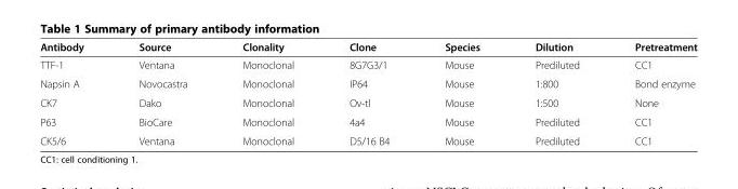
<table><thead><tr><td>Antibody</td><td>Source</td><td>Clonality</td><td>Clone</td><td>Species</td><td>Dilution</td><td>Pretreatment</td></tr></thead><tbody><tr><td>TTF-1</td><td>Ventana</td><td>Monoclonal</td><td>8G7G3/1</td><td>Mouse</td><td>Prediluted</td><td>CC1</td></tr><tr><td>Napsin A</td><td>Novocastra</td><td>Monoclonal</td><td>IP64</td><td>Mouse</td><td>1:800</td><td>Bond enzyme</td></tr><tr><td>CK7</td><td>Dako</td><td>Monoclonal</td><td>Ov-tl</td><td>Mouse</td><td>1:500</td><td>None</td></tr><tr><td>P63</td><td>BioCare</td><td>Monoclonal</td><td>4a4</td><td>Mouse</td><td>Prediluted</td><td>CC1</td></tr><tr><td>CK5/6</td><td>Ventana</td><td>Monoclonal</td><td>D5/16 B4</td><td>Mouse</td><td>Prediluted</td><td>CC1</td></tr></tbody></table>